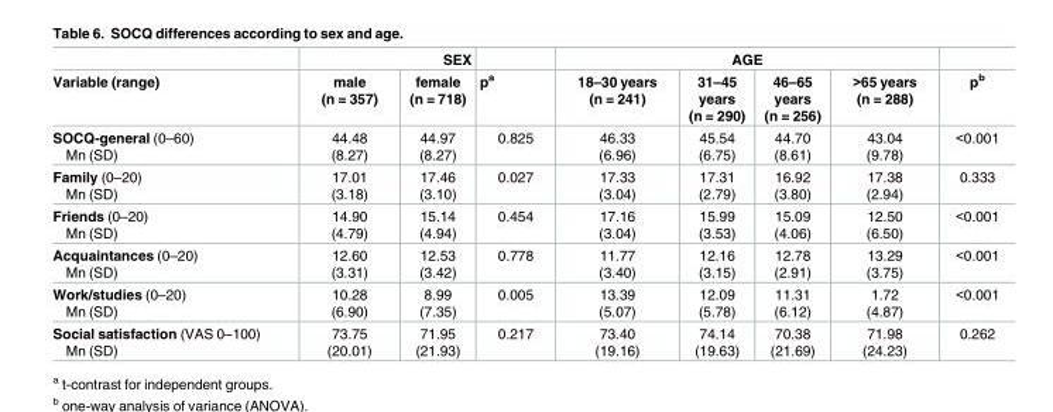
<table><thead><tr><td rowspan="2">Variable (range)</td><td colspan="2">SEX</td><td rowspan="2">p<sup>a</sup></td><td colspan="4">AGE</td><td rowspan="2">p<sup>b</sup></td></tr><tr><td>male (n = 357)</td><td>female (n = 718)</td><td>18–30 years (n = 241)</td><td>31–45 years (n = 290)</td><td>46–65 years (n = 256)</td><td>&gt;65 years (n = 288)</td></tr></thead><tbody><tr><td>SOCQ-general (0–60) Mn (SD)</td><td>44.48 (8.27)</td><td>44.97 (8.27)</td><td>0.825</td><td>46.33 (6.96)</td><td>45.54 (6.75)</td><td>44.70 (8.61)</td><td>43.04 (9.78)</td><td>&lt;0.001</td></tr><tr><td>Family (0–20) Mn (SD)</td><td>17.01 (3.18)</td><td>17.46 (3.10)</td><td>0.027</td><td>17.33 (3.04)</td><td>17.31 (2.79)</td><td>16.92 (3.80)</td><td>17.38 (2.94)</td><td>0.333</td></tr><tr><td>Friends (0–20) Mn (SD)</td><td>14.90 (4.79)</td><td>15.14 (4.94)</td><td>0.454</td><td>17.16 (3.04)</td><td>15.99 (3.53)</td><td>15.09 (4.06)</td><td>12.50 (6.50)</td><td>&lt;0.001</td></tr><tr><td>Acquaintances (0–20) Mn (SD)</td><td>12.60 (3.31)</td><td>12.53 (3.42)</td><td>0.778</td><td>11.77 (3.40)</td><td>12.16 (3.15)</td><td>12.78 (2.91)</td><td>13.29 (3.75)</td><td>&lt;0.001</td></tr><tr><td>Work/studies (0–20) Mn (SD)</td><td>10.28 (6.90)</td><td>8.99 (7.35)</td><td>0.005</td><td>13.39 (5.07)</td><td>12.09 (5.78)</td><td>11.31 (6.12)</td><td>1.72 (4.87)</td><td>&lt;0.001</td></tr><tr><td>Social satisfaction (VAS 0–100) Mn (SD)</td><td>73.75 (20.01)</td><td>71.95 (21.93)</td><td>0.217</td><td>73.40 (19.16)</td><td>74.14 (19.63)</td><td>70.38 (21.69)</td><td>71.98 (24.23)</td><td>0.262</td></tr></tbody></table>